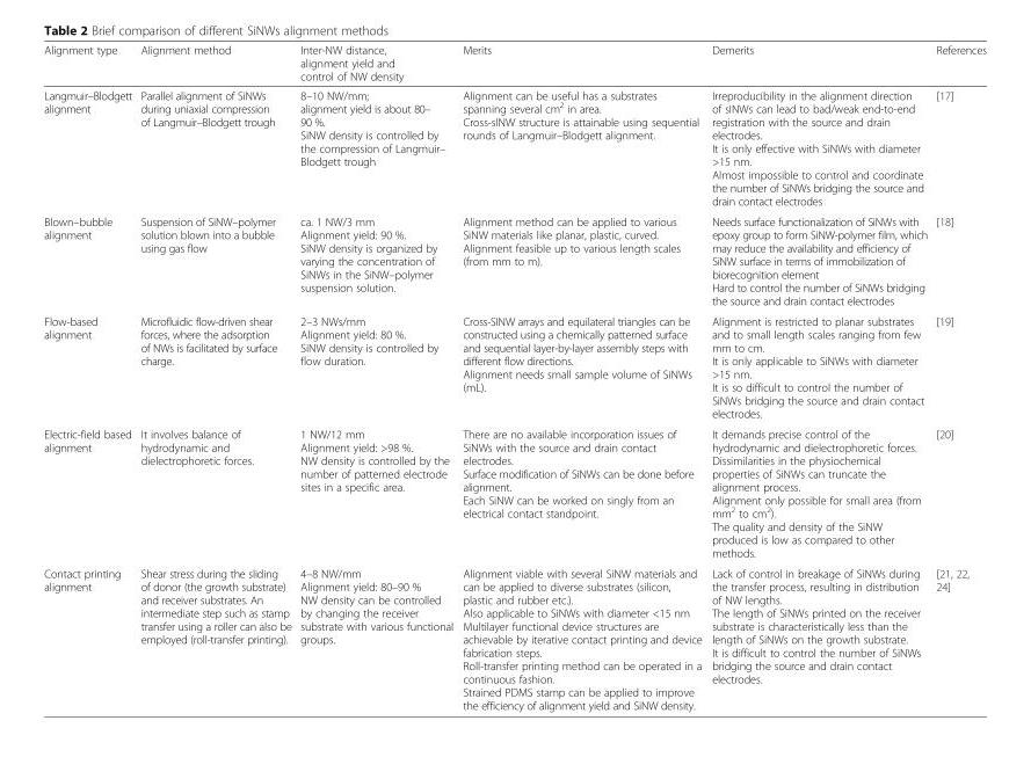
<table><thead><tr><td>Alignment type</td><td>Alignment method</td><td>Inter-NW distance, alignment yield and control of NW density</td><td>Merits</td><td>Demerits</td><td>References</td></tr></thead><tbody><tr><td>Langmuir–Blodgett alignment</td><td>Parallel alignment of SiNWs during uniaxial compression of Langmuir–Blodgett trough</td><td>8–10 NW/mm; alignment yield is about 80– 90 %. SiNW density is controlled by the compression of Langmuir– Blodgett trough</td><td>Alignment can be useful has a substrates spanning several cm<sup>2</sup> in area. Cross-sINW structure is attainable using sequential rounds of Langmuir–Blodgett alignment.</td><td>Irreproducibility in the alignment direction of sINWs can lead to bad/weak end-to-end registration with the source and drain electrodes. It is only effective with SiNWs with diameter &gt;15 nm. Almost impossible to control and coordinate the number of SiNWs bridging the source and drain contact electrodes</td><td>[17]</td></tr><tr><td>Blown–bubble alignment</td><td>Suspension of SiNW–polymer solution blown into a bubble using gas flow</td><td>ca. 1 NW/3 mm Alignment yield: 90 %. SiNW density is organized by varying the concentration of SiNWs in the SiNW–polymer suspension solution.</td><td>Alignment method can be applied to various SiNW materials like planar, plastic, curved. Alignment feasible up to various length scales (from mm to m).</td><td>Needs surface functionalization of SiNWs with epoxy group to form SiNW-polymer film, which may reduce the availability and efficiency of SiNW surface in terms of immobilization of biorecognition element Hard to control the number of SiNWs bridging the source and drain contact electrodes</td><td>[18]</td></tr><tr><td>Flow-based alignment</td><td>Microfluidic flow-driven shear forces, where the adsorption of NWs is facilitated by surface charge.</td><td>2–3 NWs/mm Alignment yield: 80 %. SiNW density is controlled by flow duration.</td><td>Cross-SINW arrays and equilateral triangles can be constructed using a chemically patterned surface and sequential layer-by-layer assembly steps with different flow directions. Alignment needs small sample volume of SiNWs (mL).</td><td>Alignment is restricted to planar substrates and to small length scales ranging from few mm to cm. It is only applicable to SiNWs with diameter &gt;15 nm. It is so difficult to control the number of SiNWs bridging the source and drain contact electrodes.</td><td>[19]</td></tr><tr><td>Electric-field based alignment</td><td>It involves balance of hydrodynamic and dielectrophoretic forces.</td><td>1 NW/12 mm Alignment yield: &gt;98 %. NW density is controlled by the number of patterned electrode sites in a specific area.</td><td>There are no available incorporation issues of SiNWs with the source and drain contact electrodes. Surface modification of SiNWs can be done before alignment. Each SiNW can be worked on singly from an electrical contact standpoint.</td><td>It demands precise control of the hydrodynamic and dielectrophoretic forces. Dissimilarities in the physiochemical properties of SiNWs can truncate the alignment process. Alignment only possible for small area (from mm<sup>2</sup> to cm<sup>2</sup>). The quality and density of the SiNW produced is low as compared to other methods.</td><td>[20]</td></tr><tr><td>Contact printing alignment</td><td>Shear stress during the sliding of donor (the growth substrate) and receiver substrates. An intermediate step such as stamp transfer using a roller can also be employed (roll-transfer printing).</td><td>4–8 NW/mm Alignment yield: 80–90 % NW density can be controlled by changing the receiver substrate with various functional groups.</td><td>Alignment viable with several SiNW materials and can be applied to diverse substrates (silicon, plastic and rubber etc.). Also applicable to SiNWs with diameter &lt;15 nm Multilayer functional device structures are achievable by iterative contact printing and device fabrication steps. Roll-transfer printing method can be operated in a continuous fashion. Strained PDMS stamp can be applied to improve the efficiency of alignment yield and SiNW density.</td><td>Lack of control in breakage of SiNWs during the transfer process, resulting in distribution of NW lengths. The length of SiNWs printed on the receiver substrate is characteristically less than the length of SiNWs on the growth substrate. It is difficult to control the number of SiNWs bridging the source and drain contact electrodes.</td><td>[21, 22, 24]</td></tr></tbody></table>